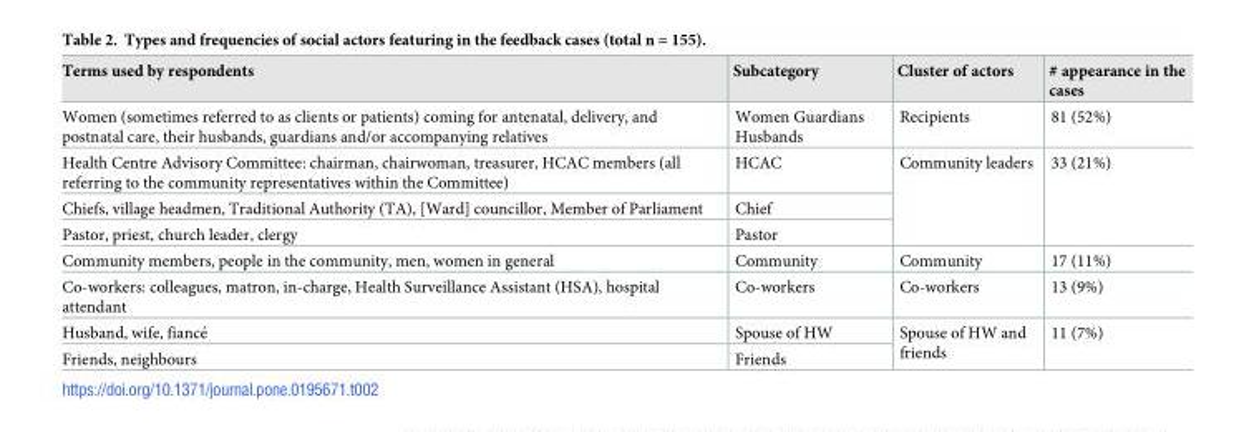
<table><thead><tr><td>Terms used by respondents</td><td>Subcategory</td><td>Cluster of actors</td><td># appearance in the cases</td></tr></thead><tbody><tr><td>Women (sometimes referred to as clients or patients) coming for antenatal, delivery, and postnatal care, their husbands, guardians and/or accompanying relatives</td><td>Women Guardians Husbands</td><td>Recipients</td><td>81 (52%)</td></tr><tr><td>Health Centre Advisory Committee: chairman, chairwoman, treasurer, HCAC members (all referring to the community representatives within the Committee)</td><td>HCAC</td><td rowspan="3">Community leaders</td><td rowspan="3">33 (21%)</td></tr><tr><td>Chiefs, village headmen, Traditional Authority (TA), [Ward] councillor, Member of Parliament</td><td>Chief</td></tr><tr><td>Pastor, priest, church leader, clergy</td><td>Pastor</td></tr><tr><td>Community members, people in the community, men, women in general</td><td>Community</td><td>Community</td><td>17 (11%)</td></tr><tr><td>Co-workers: colleagues, matron, in-charge, Health Surveillance Assistant (HSA), hospital attendant</td><td>Co-workers</td><td>Co-workers</td><td>13 (9%)</td></tr><tr><td>Husband, wife, fiance´</td><td>Spouse of HW</td><td rowspan="2">Spouse of HW and friends</td><td rowspan="2">11 (7%)</td></tr><tr><td>Friends, neighbours</td><td>Friends</td></tr></tbody></table>